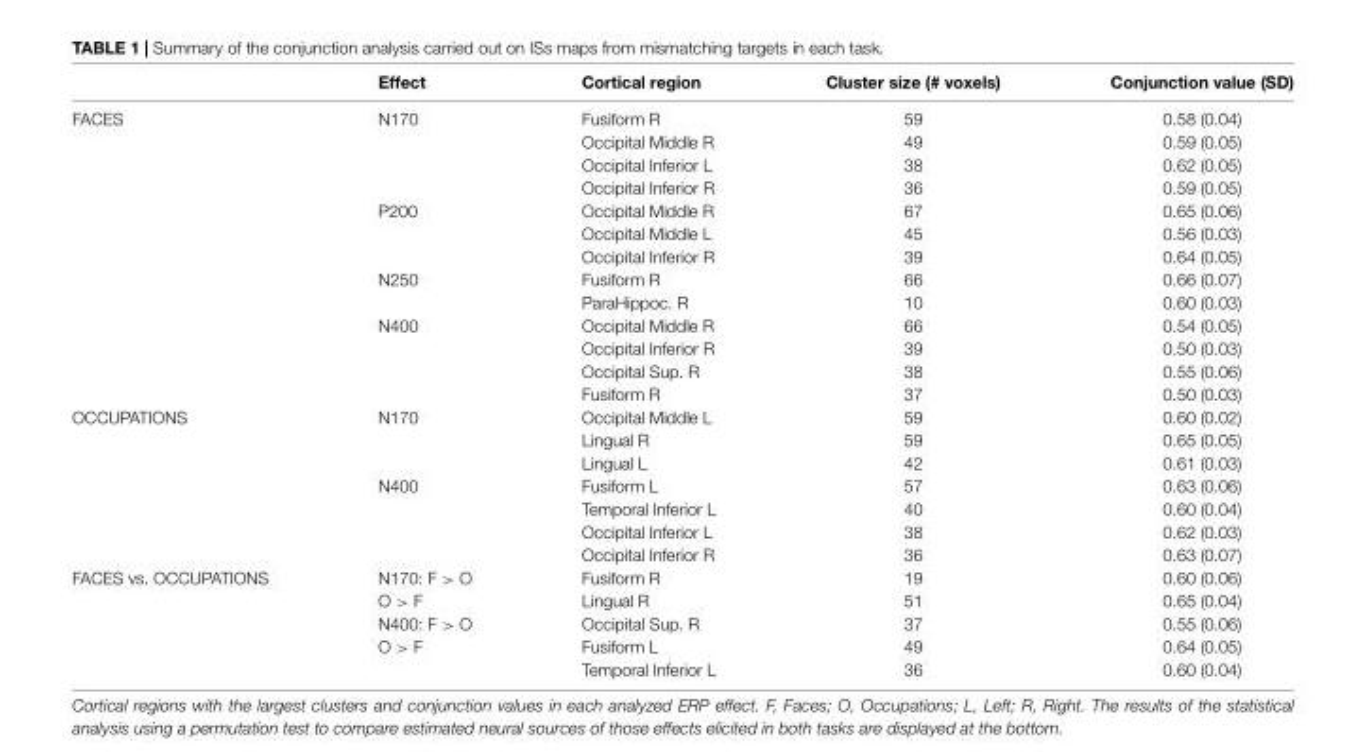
<table><thead><tr><td></td><td>Effect</td><td>Cortical region</td><td>Cluster size (# voxels)</td><td>Conjunction value (SD)</td></tr></thead><tbody><tr><td rowspan="13">FACES</td><td>N170</td><td>Fusiform R</td><td>59</td><td>0.58 (0.04)</td></tr><tr><td></td><td>Occipital Middle R</td><td>49</td><td>0.59 (0.05)</td></tr><tr><td></td><td>Occipital Inferior L</td><td>38</td><td>0.62 (0.05)</td></tr><tr><td></td><td>Occipital Inferior R</td><td>36</td><td>0.59 (0.05)</td></tr><tr><td>P200</td><td>Occipital Middle R</td><td>67</td><td>0.65 (0.06)</td></tr><tr><td></td><td>Occipital Middle L</td><td>45</td><td>0.56 (0.03)</td></tr><tr><td></td><td>Occipital Inferior R</td><td>39</td><td>0.64 (0.05)</td></tr><tr><td>N250</td><td>Fusiform R</td><td>66</td><td>0.66 (0.07)</td></tr><tr><td></td><td>ParaHippoc. R</td><td>10</td><td>0.60 (0.03)</td></tr><tr><td>N400</td><td>Occipital Middle R</td><td>66</td><td>0.54 (0.05)</td></tr><tr><td></td><td>Occipital Inferior R</td><td>39</td><td>0.50 (0.03)</td></tr><tr><td></td><td>Occipital Sup. R</td><td>38</td><td>0.55 (0.06)</td></tr><tr><td></td><td>Fusiform R</td><td>37</td><td>0.50 (0.03)</td></tr><tr><td rowspan="7">OCCUPATIONS</td><td>N170</td><td>Occipital Middle L</td><td>59</td><td>0.60 (0.02)</td></tr><tr><td></td><td>Lingual R</td><td>59</td><td>0.65 (0.05)</td></tr><tr><td></td><td>Lingual L</td><td>42</td><td>0.61 (0.03)</td></tr><tr><td>N400</td><td>Fusiform L</td><td>57</td><td>0.63 (0.06)</td></tr><tr><td></td><td>Temporal Inferior L</td><td>40</td><td>0.60 (0.04)</td></tr><tr><td></td><td>Occipital Inferior L</td><td>38</td><td>0.62 (0.03)</td></tr><tr><td></td><td>Occipital Inferior R</td><td>36</td><td>0.63 (0.07)</td></tr><tr><td rowspan="5">FACES vs. OCCUPATIONS</td><td>N170: F &gt; O</td><td>Fusiform R</td><td>19</td><td>0.60 (0.06)</td></tr><tr><td>O &gt; F</td><td>Lingual R</td><td>51</td><td>0.65 (0.04)</td></tr><tr><td>N400: F &gt; O</td><td>Occipital Sup. R</td><td>37</td><td>0.55 (0.06)</td></tr><tr><td>O &gt; F</td><td>Fusiform L</td><td>49</td><td>0.64 (0.05)</td></tr><tr><td></td><td>Temporal Inferior L</td><td>36</td><td>0.60 (0.04)</td></tr></tbody></table>